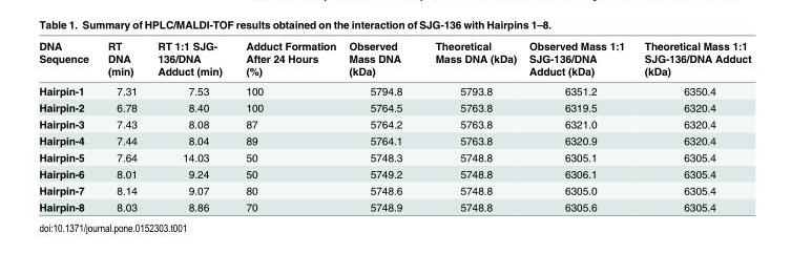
<table><thead><tr><td>DNA Sequence</td><td>RT DNA (min)</td><td>RT 1:1 SJG- 136/DNA Adduct (min)</td><td>Adduct Formation After 24 Hours (%)</td><td>Observed Mass DNA (kDa)</td><td>Theoretical Mass DNA (kDa)</td><td>Observed Mass 1:1 SJG-136/DNA Adduct (kDa)</td><td>Theoretical Mass 1:1 SJG-136/DNA Adduct (kDa)</td></tr></thead><tbody><tr><td>Hairpin-1</td><td>7.31</td><td>7.53</td><td>100</td><td>5794.8</td><td>5793.8</td><td>6351.2</td><td>6350.4</td></tr><tr><td>Hairpin-2</td><td>6.78</td><td>8.40</td><td>100</td><td>5764.5</td><td>5763.8</td><td>6319.5</td><td>6320.4</td></tr><tr><td>Hairpin-3</td><td>7.43</td><td>8.08</td><td>87</td><td>5764.2</td><td>5763.8</td><td>6321.0</td><td>6320.4</td></tr><tr><td>Hairpin-4</td><td>7.44</td><td>8.04</td><td>89</td><td>5764.1</td><td>5763.8</td><td>6320.9</td><td>6320.4</td></tr><tr><td>Hairpin-5</td><td>7.64</td><td>14.03</td><td>50</td><td>5748.3</td><td>5748.8</td><td>6305.1</td><td>6305.4</td></tr><tr><td>Hairpin-6</td><td>8.01</td><td>9.24</td><td>50</td><td>5749.2</td><td>5748.8</td><td>6306.1</td><td>6305.4</td></tr><tr><td>Hairpin-7</td><td>8.14</td><td>9.07</td><td>80</td><td>5748.6</td><td>5748.8</td><td>6305.0</td><td>6305.4</td></tr><tr><td>Hairpin-8</td><td>8.03</td><td>8.86</td><td>70</td><td>5748.9</td><td>5748.8</td><td>6305.6</td><td>6305.4</td></tr></tbody></table>